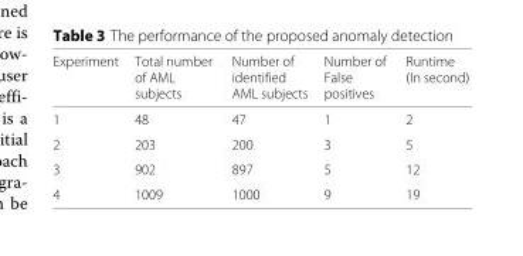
<table><thead><tr><td>Experiment</td><td>Total number of AML subjects</td><td>Number of identified AML subjects</td><td>Number of False positives</td><td>Runtime (In second)</td></tr></thead><tbody><tr><td>1</td><td>48</td><td>47</td><td>1</td><td>2</td></tr><tr><td>2</td><td>203</td><td>200</td><td>3</td><td>5</td></tr><tr><td>3</td><td>902</td><td>897</td><td>5</td><td>12</td></tr><tr><td>4</td><td>1009</td><td>1000</td><td>9</td><td>19</td></tr></tbody></table>